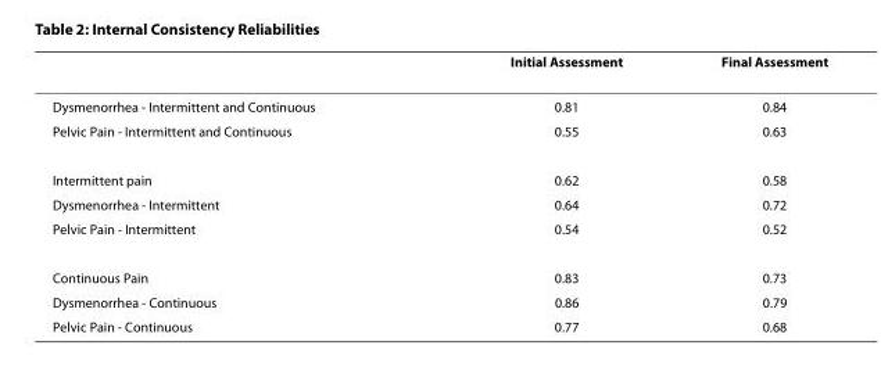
<table><thead><tr><td></td><td>Initial Assessment</td><td>Final Assessment</td></tr></thead><tbody><tr><td>Dysmenorrhea - Intermittent and Continuous</td><td>0.81</td><td>0.84</td></tr><tr><td>Pelvic Pain - Intermittent and Continuous</td><td>0.55</td><td>0.63</td></tr><tr><td>Intermittent pain</td><td>0.62</td><td>0.58</td></tr><tr><td>Dysmenorrhea - Intermittent</td><td>0.64</td><td>0.72</td></tr><tr><td>Pelvic Pain - Intermittent</td><td>0.54</td><td>0.52</td></tr><tr><td>Continuous Pain</td><td>0.83</td><td>0.73</td></tr><tr><td>Dysmenorrhea - Continuous</td><td>0.86</td><td>0.79</td></tr><tr><td>Pelvic Pain - Continuous</td><td>0.77</td><td>0.68</td></tr></tbody></table>